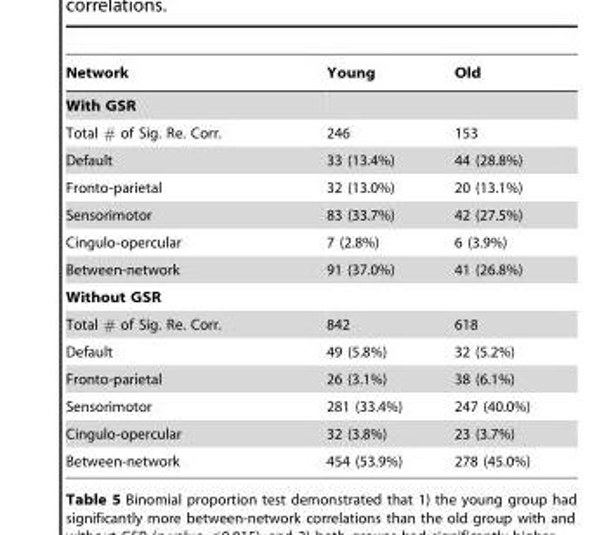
<table><thead><tr><td>Network</td><td>Young</td><td>Old</td></tr></thead><tbody><tr><td colspan="3">With GSR</td></tr><tr><td>Total # of Sig. Re. Corr.</td><td>246</td><td>153</td></tr><tr><td>Default</td><td>33 (13.4%)</td><td>44 (28.8%)</td></tr><tr><td>Fronto-parietal</td><td>32 (13.0%)</td><td>20 (13.1%)</td></tr><tr><td>Sensorimotor</td><td>83 (33.7%)</td><td>42 (27.5%)</td></tr><tr><td>Cingulo-opercular</td><td>7 (2.8%)</td><td>6 (3.9%)</td></tr><tr><td>Between-network</td><td>91 (37.0%)</td><td>41 (26.8%)</td></tr><tr><td colspan="3">Without GSR</td></tr><tr><td>Total # of Sig. Re. Corr.</td><td>842</td><td>618</td></tr><tr><td>Default</td><td>49 (5.8%)</td><td>32 (5.2%)</td></tr><tr><td>Fronto-parietal</td><td>26 (3.1%)</td><td>38 (6.1%)</td></tr><tr><td>Sensorimotor</td><td>281 (33.4%)</td><td>247 (40.0%)</td></tr><tr><td>Cingulo-opercular</td><td>32 (3.8%)</td><td>23 (3.7%)</td></tr><tr><td>Between-network</td><td>454 (53.9%)</td><td>278 (45.0%)</td></tr></tbody></table>